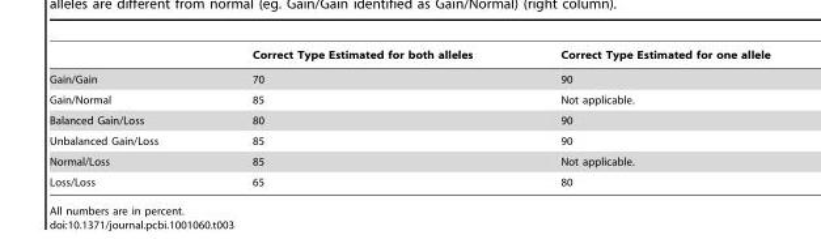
<table><thead><tr><td></td><td>Correct Type Estimated for both alleles</td><td>Correct Type Estimated for one allele</td></tr></thead><tbody><tr><td>Gain/Gain</td><td>70</td><td>90</td></tr><tr><td>Gain/Normal</td><td>85</td><td>Not applicable.</td></tr><tr><td>Balanced Gain/Loss</td><td>80</td><td>90</td></tr><tr><td>Unbalanced Gain/Loss</td><td>85</td><td>90</td></tr><tr><td>Normal/Loss</td><td>85</td><td>Not applicable.</td></tr><tr><td>Loss/Loss</td><td>65</td><td>80</td></tr></tbody></table>